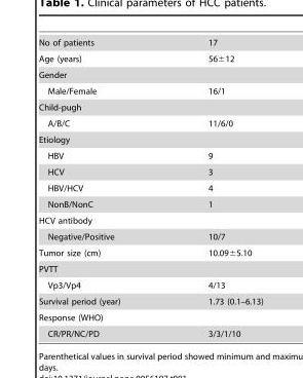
<table><tbody><tr><td>No of patients</td><td>17</td></tr><tr><td>Age (years)</td><td>56±12</td></tr><tr><td colspan="2">Gender</td></tr><tr><td>Male/Female</td><td>16/1</td></tr><tr><td colspan="2">Child-pugh</td></tr><tr><td>A/B/C</td><td>11/6/0</td></tr><tr><td colspan="2">Etiology</td></tr><tr><td>HBV</td><td>9</td></tr><tr><td>HCV</td><td>3</td></tr><tr><td>HBV/HCV</td><td>4</td></tr><tr><td>NonB/NonC</td><td>1</td></tr><tr><td colspan="2">HCV antibody</td></tr><tr><td>Negative/Positive</td><td>10/7</td></tr><tr><td>Tumor size (cm)</td><td>10.09±5.10</td></tr><tr><td colspan="2">PVTT</td></tr><tr><td>Vp3/Vp4</td><td>4/13</td></tr><tr><td>Survival period (year)</td><td>1.73 (0.1–6.13)</td></tr><tr><td colspan="2">Response (WHO)</td></tr><tr><td>CR/PR/NC/PD</td><td>3/3/1/10</td></tr></tbody></table>